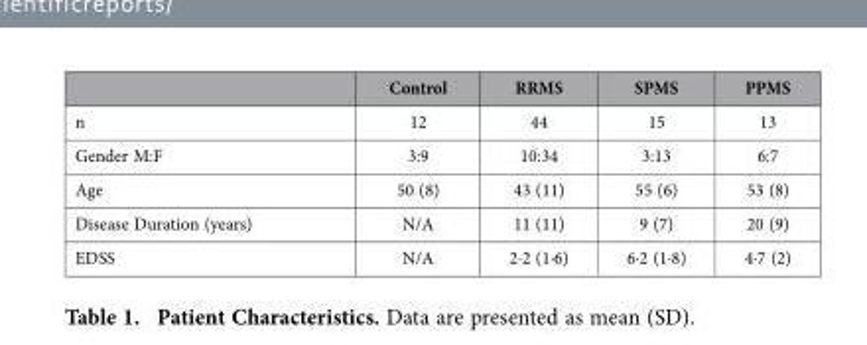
<table><thead><tr><td></td><td>Control</td><td>RRMS</td><td>SPMS</td><td>PPMS</td></tr></thead><tbody><tr><td>n</td><td>12</td><td>44</td><td>15</td><td>13</td></tr><tr><td>Gender M:F</td><td>3:9</td><td>10:34</td><td>3:13</td><td>6:7</td></tr><tr><td>Age</td><td>50 (8)</td><td>43 (11)</td><td>55 (6)</td><td>53 (8)</td></tr><tr><td>Disease Duration (years)</td><td>N/A</td><td>11 (11)</td><td>9 (7)</td><td>20 (9)</td></tr><tr><td>EDSS</td><td>N/A</td><td>2·2 (1·6)</td><td>6·2 (1·8)</td><td>4·7 (2)</td></tr></tbody></table>